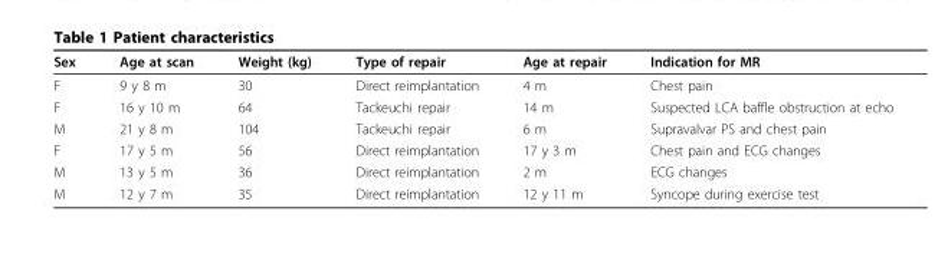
<table><thead><tr><td>Sex</td><td>Age at scan</td><td>Weight (kg)</td><td>Type of repair</td><td>Age at repair</td><td>Indication for MR</td></tr></thead><tbody><tr><td>F</td><td>9 y 8 m</td><td>30</td><td>Direct reimplantation</td><td>4 m</td><td>Chest pain</td></tr><tr><td>F</td><td>16 y 10 m</td><td>64</td><td>Tackeuchi repair</td><td>14 m</td><td>Suspected LCA baffle obstruction at echo</td></tr><tr><td>M</td><td>21 y 8 m</td><td>104</td><td>Tackeuchi repair</td><td>6 m</td><td>Supravalvar PS and chest pain</td></tr><tr><td>F</td><td>17 y 5 m</td><td>56</td><td>Direct reimplantation</td><td>17 y 3 m</td><td>Chest pain and ECG changes</td></tr><tr><td>M</td><td>13 y 5 m</td><td>36</td><td>Direct reimplantation</td><td>2 m</td><td>ECG changes</td></tr><tr><td>M</td><td>12 y 7 m</td><td>35</td><td>Direct reimplantation</td><td>12 y 11 m</td><td>Syncope during exercise test</td></tr></tbody></table>